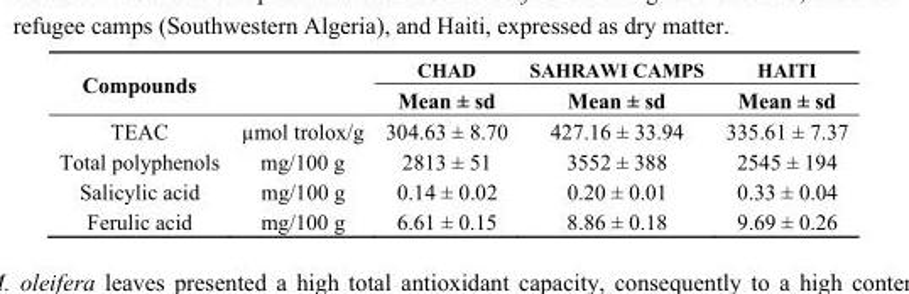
<table><thead><tr><td rowspan="2">Compounds</td><td rowspan="2"></td><td rowspan="2">CHAD Mean ± sd</td><td rowspan="2">SAHRAWI CAMPS Mean ± sd</td><td rowspan="2">HAITI Mean ± sd</td></tr><tr></tr></thead><tbody><tr><td>TEAC</td><td>µmol trolox/g</td><td>304.63 ± 8.70</td><td>427.16 ± 33.94</td><td>335.61 ± 7.37</td></tr><tr><td>Total polyphenols</td><td>mg/100 g</td><td>2813 ± 51</td><td>3552 ± 388</td><td>2545 ± 194</td></tr><tr><td>Salicylic acid</td><td>mg/100 g</td><td>0.14 ± 0.02</td><td>0.20 ± 0.01</td><td>0.33 ± 0.04</td></tr><tr><td>Ferulic acid</td><td>mg/100 g</td><td>6.61 ± 0.15</td><td>8.86 ± 0.18</td><td>9.69 ± 0.26</td></tr></tbody></table>